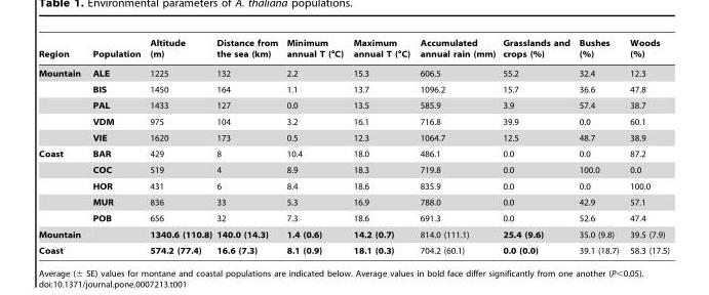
<table><thead><tr><td>Region</td><td>Population</td><td>Altitude (m)</td><td>Distance from the sea (km)</td><td>Minimum annual T (°C)</td><td>Maximum annual T (°C)</td><td>Accumulated annual rain (mm)</td><td>Grasslands and crops (%)</td><td>Bushes (%)</td><td>Woods (%)</td></tr></thead><tbody><tr><td rowspan="5">Mountain</td><td>ALE</td><td>1225</td><td>132</td><td>2.2</td><td>15.3</td><td>606.5</td><td>55.2</td><td>32.4</td><td>12.3</td></tr><tr><td>BIS</td><td>1450</td><td>164</td><td>1.1</td><td>13.7</td><td>1096.2</td><td>15.7</td><td>36.6</td><td>47.8</td></tr><tr><td>PAL</td><td>1433</td><td>127</td><td>0.0</td><td>13.5</td><td>585.9</td><td>3.9</td><td>57.4</td><td>38.7</td></tr><tr><td>VDM</td><td>975</td><td>104</td><td>3.2</td><td>16.1</td><td>716.8</td><td>39.9</td><td>0.0</td><td>60.1</td></tr><tr><td>VIE</td><td>1620</td><td>173</td><td>0.5</td><td>12.3</td><td>1064.7</td><td>12.5</td><td>48.7</td><td>38.9</td></tr><tr><td rowspan="5">Coast</td><td>BAR</td><td>429</td><td>8</td><td>10.4</td><td>18.0</td><td>486.1</td><td>0.0</td><td>0.0</td><td>87.2</td></tr><tr><td>COC</td><td>519</td><td>4</td><td>8.9</td><td>18.3</td><td>719.8</td><td>0.0</td><td>100.0</td><td>0.0</td></tr><tr><td>HOR</td><td>431</td><td>6</td><td>8.4</td><td>18.6</td><td>835.9</td><td>0.0</td><td>0.0</td><td>100.0</td></tr><tr><td>MUR</td><td>836</td><td>33</td><td>5.3</td><td>16.9</td><td>788.0</td><td>0.0</td><td>42.9</td><td>57.1</td></tr><tr><td>POB</td><td>656</td><td>32</td><td>7.3</td><td>18.6</td><td>691.3</td><td>0.0</td><td>52.6</td><td>47.4</td></tr><tr><td>Mountain</td><td></td><td>1340.6 (110.8)</td><td>140.0 (14.3)</td><td>1.4 (0.6)</td><td>14.2 (0.7)</td><td>814.0 (111.1)</td><td>25.4 (9.6)</td><td>35.0 (9.8)</td><td>39.5 (7.9)</td></tr><tr><td>Coast</td><td></td><td>574.2 (77.4)</td><td>16.6 (7.3)</td><td>8.1 (0.9)</td><td>18.1 (0.3)</td><td>704.2 (60.1)</td><td>0.0 (0.0)</td><td>39.1 (18.7)</td><td>58.3 (17.5)</td></tr></tbody></table>